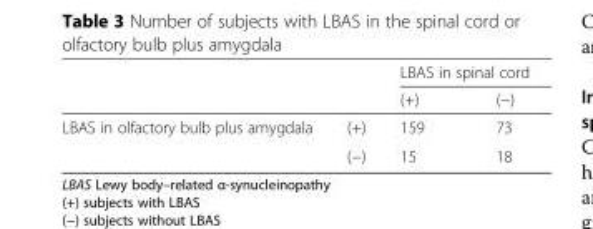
<table><thead><tr><td rowspan="2"></td><td rowspan="2"></td><td colspan="2">LBAS in spinal cord</td></tr><tr><td>(+)</td><td>(−)</td></tr></thead><tbody><tr><td rowspan="2">LBAS in olfactory bulb plus amygdala</td><td>(+)</td><td>159</td><td>73</td></tr><tr><td>(−)</td><td>15</td><td>18</td></tr></tbody></table>